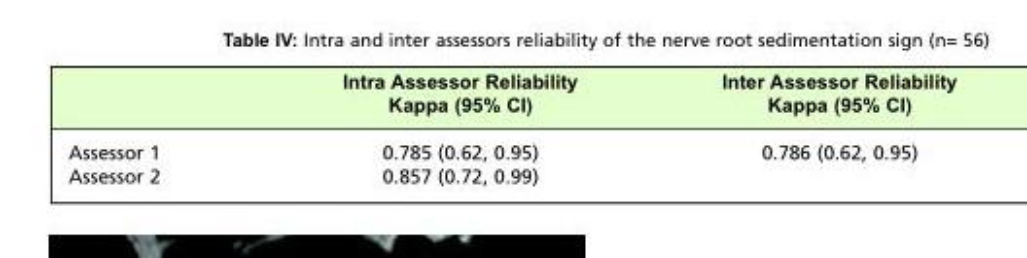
<table><thead><tr><td></td><td>Intra Assessor Reliability Kappa (95% CI)</td><td>Inter Assessor Reliability Kappa (95% CI)</td></tr></thead><tbody><tr><td>Assessor 1</td><td>0.785 (0.62, 0.95)</td><td>0.786 (0.62, 0.95)</td></tr><tr><td>Assessor 2</td><td>0.857 (0.72, 0.99)</td><td></td></tr></tbody></table>